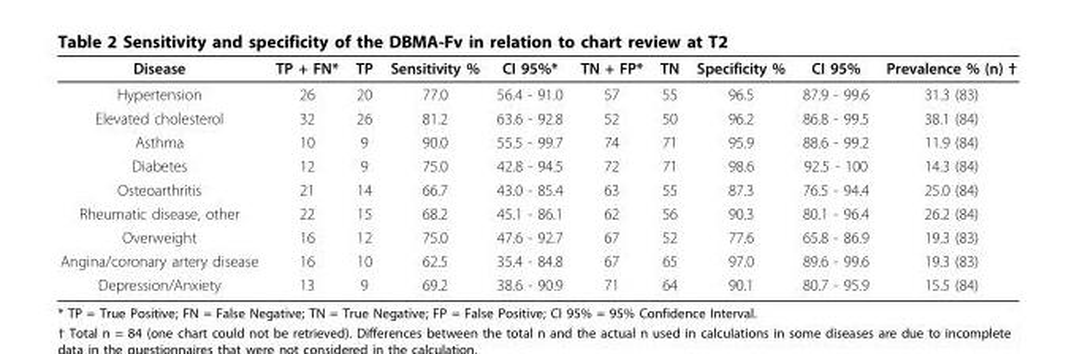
<table><thead><tr><td>Disease</td><td>TP + FN*</td><td>TP</td><td>Sensitivity %</td><td>CI 95%*</td><td>TN + FP*</td><td>TN</td><td>Specificity %</td><td>CI 95%</td><td>Prevalence % (n) †</td></tr></thead><tbody><tr><td>Hypertension</td><td>26</td><td>20</td><td>77.0</td><td>56.4 - 91.0</td><td>57</td><td>55</td><td>96.5</td><td>87.9 - 99.6</td><td>31.3 (83)</td></tr><tr><td>Elevated cholesterol</td><td>32</td><td>26</td><td>81.2</td><td>63.6 - 92.8</td><td>52</td><td>50</td><td>96.2</td><td>86.8 - 99.5</td><td>38.1 (84)</td></tr><tr><td>Asthma</td><td>10</td><td>9</td><td>90.0</td><td>55.5 - 99.7</td><td>74</td><td>71</td><td>95.9</td><td>88.6 - 99.2</td><td>11.9 (84)</td></tr><tr><td>Diabetes</td><td>12</td><td>9</td><td>75.0</td><td>42.8 - 94.5</td><td>72</td><td>71</td><td>98.6</td><td>92.5 - 100</td><td>14.3 (84)</td></tr><tr><td>Osteoarthritis</td><td>21</td><td>14</td><td>66.7</td><td>43.0 - 85.4</td><td>63</td><td>55</td><td>87.3</td><td>76.5 - 94.4</td><td>25.0 (84)</td></tr><tr><td>Rheumatic disease, other</td><td>22</td><td>15</td><td>68.2</td><td>45.1 - 86.1</td><td>62</td><td>56</td><td>90.3</td><td>80.1 - 96.4</td><td>26.2 (84)</td></tr><tr><td>Overweight</td><td>16</td><td>12</td><td>75.0</td><td>47.6 - 92.7</td><td>67</td><td>52</td><td>77.6</td><td>65.8 - 86.9</td><td>19.3 (83)</td></tr><tr><td>Angina/coronary artery disease</td><td>16</td><td>10</td><td>62.5</td><td>35.4 - 84.8</td><td>67</td><td>65</td><td>97.0</td><td>89.6 - 99.6</td><td>19.3 (83)</td></tr><tr><td>Depression/Anxiety</td><td>13</td><td>9</td><td>69.2</td><td>38.6 - 90.9</td><td>71</td><td>64</td><td>90.1</td><td>80.7 - 95.9</td><td>15.5 (84)</td></tr></tbody></table>